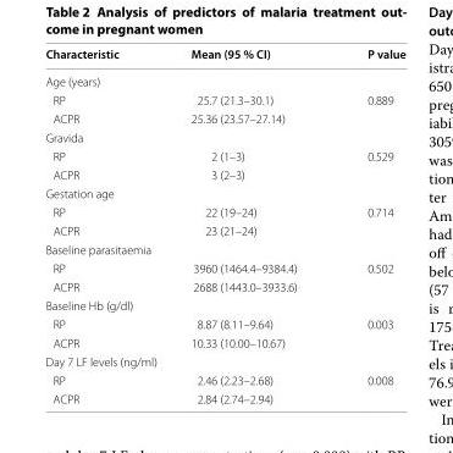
<table><thead><tr><td>Characteristic</td><td>Mean (95 % CI)</td><td>P value</td></tr></thead><tbody><tr><td colspan="3">Age (years)</td></tr><tr><td>RP</td><td>25.7 (21.3–30.1)</td><td rowspan="2">0.889</td></tr><tr><td>ACPR</td><td>25.36 (23.57–27.14)</td></tr><tr><td colspan="3">Gravida</td></tr><tr><td>RP</td><td>2 (1–3)</td><td rowspan="2">0.529</td></tr><tr><td>ACPR</td><td>3 (2–3)</td></tr><tr><td colspan="3">Gestation age</td></tr><tr><td>RP</td><td>22 (19–24)</td><td rowspan="2">0.714</td></tr><tr><td>ACPR</td><td>23 (21–24)</td></tr><tr><td colspan="3">Baseline parasitaemia</td></tr><tr><td>RP</td><td>3960 (1464.4–9384.4)</td><td rowspan="2">0.502</td></tr><tr><td>ACPR</td><td>2688 (1443.0–3933.6)</td></tr><tr><td colspan="3">Baseline Hb (g/dl)</td></tr><tr><td>RP</td><td>8.87 (8.11–9.64)</td><td rowspan="2">0.003</td></tr><tr><td>ACPR</td><td>10.33 (10.00–10.67)</td></tr><tr><td colspan="3">Day 7 LF levels (ng/ml)</td></tr><tr><td>RP</td><td>2.46 (2.23–2.68)</td><td rowspan="2">0.008</td></tr><tr><td>ACPR</td><td>2.84 (2.74–2.94)</td></tr></tbody></table>